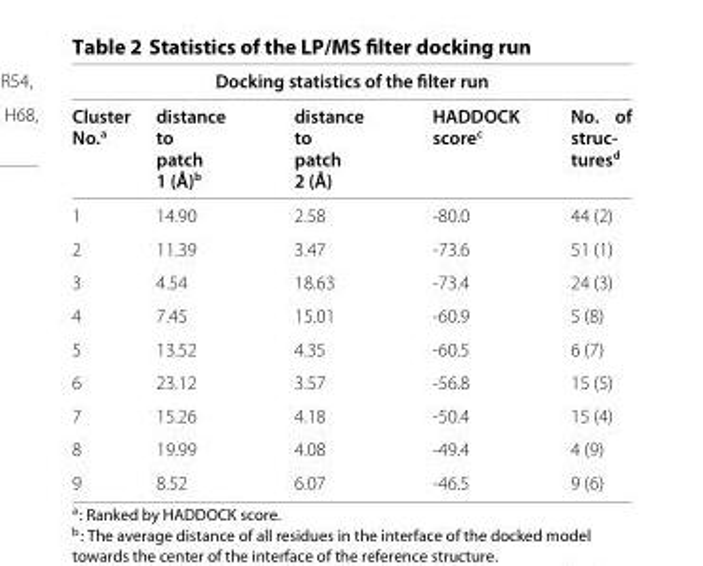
<table><thead><tr><td colspan="5">Docking statistics of the filter run</td></tr><tr><td>Cluster No.<sup>a</sup></td><td>distance to patch 1 (˚A)b</td><td>distance to patch 2 (˚A)</td><td>HADDOCK score<sup>c</sup></td><td>No. of struc- turesd</td></tr></thead><tbody><tr><td>1</td><td>14.90</td><td>2.58</td><td>-80.0</td><td>44 (2)</td></tr><tr><td>2</td><td>11.39</td><td>3.47</td><td>-73.6</td><td>51 (1)</td></tr><tr><td>3</td><td>4.54</td><td>18.63</td><td>-73.4</td><td>24 (3)</td></tr><tr><td>4</td><td>7.45</td><td>15.01</td><td>-60.9</td><td>5 (8)</td></tr><tr><td>5</td><td>13.52</td><td>4.35</td><td>-60.5</td><td>6 (7)</td></tr><tr><td>6</td><td>23.12</td><td>3.57</td><td>-56.8</td><td>15 (5)</td></tr><tr><td>7</td><td>15.26</td><td>4.18</td><td>-50.4</td><td>15 (4)</td></tr><tr><td>8</td><td>19.99</td><td>4.08</td><td>-49.4</td><td>4 (9)</td></tr><tr><td>9</td><td>8.52</td><td>6.07</td><td>-46.5</td><td>9 (6)</td></tr></tbody></table>